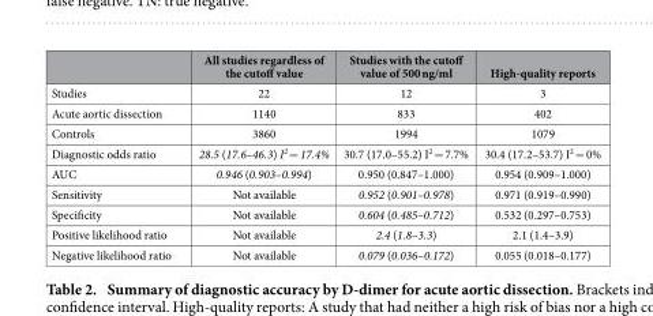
<table><thead><tr><td></td><td>All studies regardless of the cutoff value</td><td>Studies with the cutoff value of 500 ng/ml</td><td>High-quality reports</td></tr></thead><tbody><tr><td>Studies</td><td>22</td><td>12</td><td>3</td></tr><tr><td>Acute aortic dissection</td><td>1140</td><td>833</td><td>402</td></tr><tr><td>Controls</td><td>3860</td><td>1994</td><td>1079</td></tr><tr><td>Diagnostic odds ratio</td><td>28.5 (17.6–46.3) I<sup>2</sup> = 17.4%</td><td>30.7 (17.0–55.2) I<sup>2</sup> = 7.7%</td><td>30.4 (17.2–53.7) I<sup>2</sup> = 0%</td></tr><tr><td>AUC</td><td>0.946 (0.903–0.994)</td><td>0.950 (0.847–1.000)</td><td>0.954 (0.909–1.000)</td></tr><tr><td>Sensitivity</td><td>Not available</td><td>0.952 (0.901–0.978)</td><td>0.971 (0.919–0.990)</td></tr><tr><td>Specificity</td><td>Not available</td><td>0.604 (0.485–0.712)</td><td>0.532 (0.297–0.753)</td></tr><tr><td>Positive likelihood ratio</td><td>Not available</td><td>2.4 (1.8–3.3)</td><td>2.1 (1.4–3.9)</td></tr><tr><td>Negative likelihood ratio</td><td>Not available</td><td>0.079 (0.036–0.172)</td><td>0.055 (0.018–0.177)</td></tr></tbody></table>